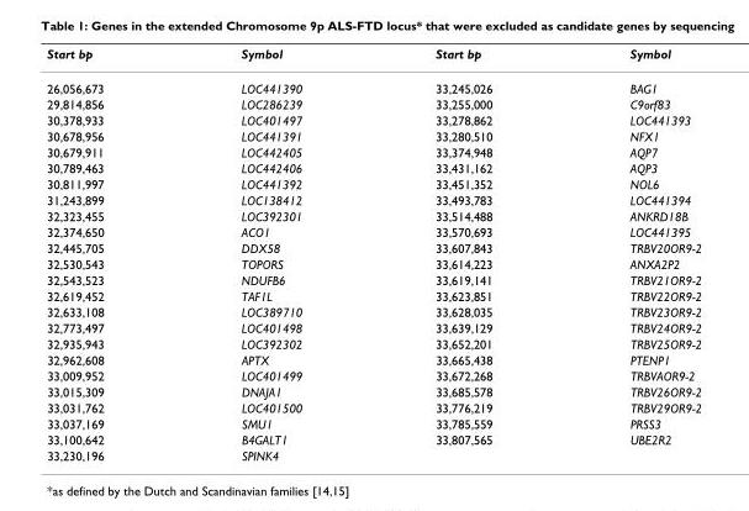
<table><thead><tr><td>Start bp</td><td>Symbol</td><td>Start bp</td><td>Symbol</td></tr></thead><tbody><tr><td>26,056,673</td><td>LOC441390</td><td>33,245,026</td><td>BAG1</td></tr><tr><td>29,814,856</td><td>LOC286239</td><td>33,255,000</td><td>C9orf83</td></tr><tr><td>30,378,933</td><td>LOC401497</td><td>33,278,862</td><td>LOC441393</td></tr><tr><td>30,678,956</td><td>LOC441391</td><td>33,280,510</td><td>NFX1</td></tr><tr><td>30,679,911</td><td>LOC442405</td><td>33,374,948</td><td>AQP7</td></tr><tr><td>30,789,463</td><td>LOC442406</td><td>33,431,162</td><td>AQP3</td></tr><tr><td>30,811,997</td><td>LOC441392</td><td>33,451,352</td><td>NOL6</td></tr><tr><td>31,243,899</td><td>LOC138412</td><td>33,493,783</td><td>LOC441394</td></tr><tr><td>32,323,455</td><td>LOC392301</td><td>33,514,488</td><td>ANKRD18B</td></tr><tr><td>32,374,650</td><td>ACO1</td><td>33,570,693</td><td>LOC441395</td></tr><tr><td>32,445,705</td><td>DDX58</td><td>33,607,843</td><td>TRBV20OR9-2</td></tr><tr><td>32,530,543</td><td>TOPORS</td><td>33,614,223</td><td>ANXA2P2</td></tr><tr><td>32,543,523</td><td>NDUFB6</td><td>33,619,141</td><td>TRBV21OR9-2</td></tr><tr><td>32,619,452</td><td>TAF1L</td><td>33,623,851</td><td>TRBV22OR9-2</td></tr><tr><td>32,633,108</td><td>LOC389710</td><td>33,628,035</td><td>TRBV23OR9-2</td></tr><tr><td>32,773,497</td><td>LOC401498</td><td>33,639,129</td><td>TRBV24OR9-2</td></tr><tr><td>32,935,943</td><td>LOC392302</td><td>33,652,201</td><td>TRBV25OR9-2</td></tr><tr><td>32,962,608</td><td>APTX</td><td>33,665,438</td><td>PTENP1</td></tr><tr><td>33,009,952</td><td>LOC401499</td><td>33,672,268</td><td>TRBVAOR9-2</td></tr><tr><td>33,015,309</td><td>DNAJA1</td><td>33,685,578</td><td>TRBV26OR9-2</td></tr><tr><td>33,031,762</td><td>LOC401500</td><td>33,776,219</td><td>TRBV29OR9-2</td></tr><tr><td>33,037,169</td><td>SMU1</td><td>33,785,559</td><td>PRSS3</td></tr><tr><td>33,100,642</td><td>B4GALT1</td><td>33,807,565</td><td>UBE2R2</td></tr><tr><td>33,230,196</td><td>SPINK4</td><td></td><td></td></tr></tbody></table>